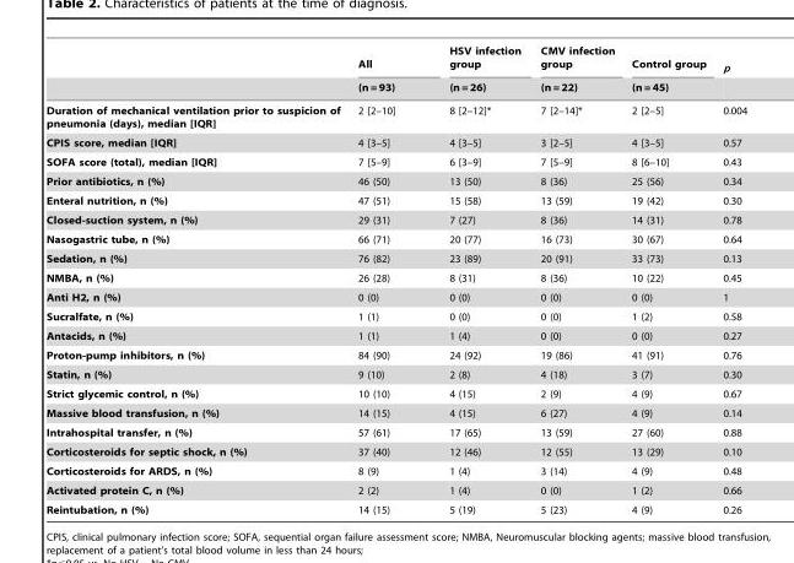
<table><thead><tr><td rowspan="2"></td><td rowspan="2">All (n = 93)</td><td rowspan="2">HSV infection group (n = 26)</td><td rowspan="2">CMV infection group (n = 22)</td><td rowspan="2">Control group (n = 45)</td><td rowspan="2">p</td></tr><tr></tr></thead><tbody><tr><td>Duration of mechanical ventilation prior to suspicion of pneumonia (days), median [IQR]</td><td>2 [2–10]</td><td>8 [2–12]*</td><td>7 [2–14]*</td><td>2 [2–5]</td><td>0.004</td></tr><tr><td>CPIS score, median [IQR]</td><td>4 [3–5]</td><td>4 [3–5]</td><td>3 [2–5]</td><td>4 [3–5]</td><td>0.57</td></tr><tr><td>SOFA score (total), median [IQR]</td><td>7 [5–9]</td><td>6 [3–9]</td><td>7 [5–9]</td><td>8 [6–10]</td><td>0.43</td></tr><tr><td>Prior antibiotics, n (%)</td><td>46 (50)</td><td>13 (50)</td><td>8 (36)</td><td>25 (56)</td><td>0.34</td></tr><tr><td>Enteral nutrition, n (%)</td><td>47 (51)</td><td>15 (58)</td><td>13 (59)</td><td>19 (42)</td><td>0.30</td></tr><tr><td>Closed-suction system, n (%)</td><td>29 (31)</td><td>7 (27)</td><td>8 (36)</td><td>14 (31)</td><td>0.78</td></tr><tr><td>Nasogastric tube, n (%)</td><td>66 (71)</td><td>20 (77)</td><td>16 (73)</td><td>30 (67)</td><td>0.64</td></tr><tr><td>Sedation, n (%)</td><td>76 (82)</td><td>23 (89)</td><td>20 (91)</td><td>33 (73)</td><td>0.13</td></tr><tr><td>NMBA, n (%)</td><td>26 (28)</td><td>8 (31)</td><td>8 (36)</td><td>10 (22)</td><td>0.45</td></tr><tr><td>Anti H2, n (%)</td><td>0 (0)</td><td>0 (0)</td><td>0 (0)</td><td>0 (0)</td><td>1</td></tr><tr><td>Sucralfate, n (%)</td><td>1 (1)</td><td>0 (0)</td><td>0 (0)</td><td>1 (2)</td><td>0.58</td></tr><tr><td>Antacids, n (%)</td><td>1 (1)</td><td>1 (4)</td><td>0 (0)</td><td>0 (0)</td><td>0.27</td></tr><tr><td>Proton-pump inhibitors, n (%)</td><td>84 (90)</td><td>24 (92)</td><td>19 (86)</td><td>41 (91)</td><td>0.76</td></tr><tr><td>Statin, n (%)</td><td>9 (10)</td><td>2 (8)</td><td>4 (18)</td><td>3 (7)</td><td>0.30</td></tr><tr><td>Strict glycemic control, n (%)</td><td>10 (10)</td><td>4 (15)</td><td>2 (9)</td><td>4 (9)</td><td>0.67</td></tr><tr><td>Massive blood transfusion, n (%)</td><td>14 (15)</td><td>4 (15)</td><td>6 (27)</td><td>4 (9)</td><td>0.14</td></tr><tr><td>Intrahospital transfer, n (%)</td><td>57 (61)</td><td>17 (65)</td><td>13 (59)</td><td>27 (60)</td><td>0.88</td></tr><tr><td>Corticosteroids for septic shock, n (%)</td><td>37 (40)</td><td>12 (46)</td><td>12 (55)</td><td>13 (29)</td><td>0.10</td></tr><tr><td>Corticosteroids for ARDS, n (%)</td><td>8 (9)</td><td>1 (4)</td><td>3 (14)</td><td>4 (9)</td><td>0.48</td></tr><tr><td>Activated protein C, n (%)</td><td>2 (2)</td><td>1 (4)</td><td>0 (0)</td><td>1 (2)</td><td>0.66</td></tr><tr><td>Reintubation, n (%)</td><td>14 (15)</td><td>5 (19)</td><td>5 (23)</td><td>4 (9)</td><td>0.26</td></tr></tbody></table>